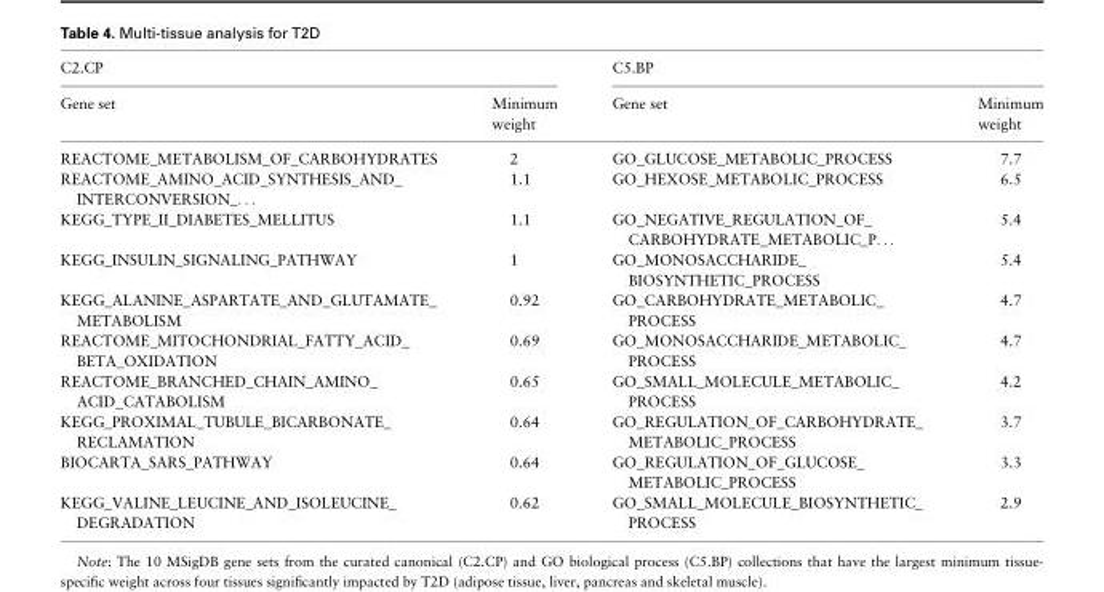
<table><thead><tr><td colspan="2">C2.CP</td><td colspan="2">C5.BP</td></tr><tr><td rowspan="2">Gene set</td><td rowspan="2">Minimum weight</td><td rowspan="2">Gene set</td><td rowspan="2">Minimum weight</td></tr><tr></tr></thead><tbody><tr><td>REACTOME_METABOLISM_OF_CARBOHYDRATES</td><td>2</td><td>GO_GLUCOSE_METABOLIC_PROCESS</td><td>7.7</td></tr><tr><td>REACTOME_AMINO_ACID_SYNTHESIS_AND_ INTERCONVERSION_. . .</td><td>1.1</td><td>GO_HEXOSE_METABOLIC_PROCESS</td><td>6.5</td></tr><tr><td>KEGG_TYPE_II_DIABETES_MELLITUS</td><td>1.1</td><td>GO_NEGATIVE_REGULATION_OF_ CARBOHYDRATE_METABOLIC_P. . .</td><td>5.4</td></tr><tr><td>KEGG_INSULIN_SIGNALING_PATHWAY</td><td>1</td><td>GO_MONOSACCHARIDE_ BIOSYNTHETIC_PROCESS</td><td>5.4</td></tr><tr><td>KEGG_ALANINE_ASPARTATE_AND_GLUTAMATE_ METABOLISM</td><td>0.92</td><td>GO_CARBOHYDRATE_METABOLIC_ PROCESS</td><td>4.7</td></tr><tr><td>REACTOME_MITOCHONDRIAL_FATTY_ACID_ BETA_OXIDATION</td><td>0.69</td><td>GO_MONOSACCHARIDE_METABOLIC_ PROCESS</td><td>4.7</td></tr><tr><td>REACTOME_BRANCHED_CHAIN_AMINO_ ACID_CATABOLISM</td><td>0.65</td><td>GO_SMALL_MOLECULE_METABOLIC_ PROCESS</td><td>4.2</td></tr><tr><td>KEGG_PROXIMAL_TUBULE_BICARBONATE_ RECLAMATION</td><td>0.64</td><td>GO_REGULATION_OF_CARBOHYDRATE_ METABOLIC_PROCESS</td><td>3.7</td></tr><tr><td>BIOCARTA_SARS_PATHWAY</td><td>0.64</td><td>GO_REGULATION_OF_GLUCOSE_ METABOLIC_PROCESS</td><td>3.3</td></tr><tr><td>KEGG_VALINE_LEUCINE_AND_ISOLEUCINE_ DEGRADATION</td><td>0.62</td><td>GO_SMALL_MOLECULE_BIOSYNTHETIC_ PROCESS</td><td>2.9</td></tr></tbody></table>